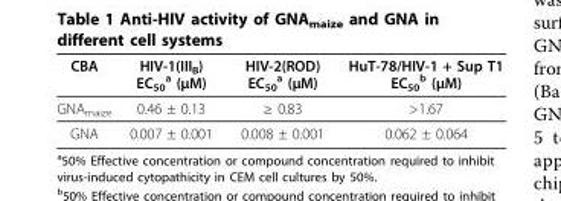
<table><thead><tr><td>CBA</td><td>HIV-1(III<sub>B</sub>) EC<sub>50</sub> <sup>a</sup> (μM)</td><td>HIV-2(ROD) EC<sub>50</sub> <sup>a</sup> (μM)</td><td>HuT-78/HIV-1 + Sup T1 EC<sub>50</sub> <sup>b</sup> (μM)</td></tr></thead><tbody><tr><td>GNA<sub>maize</sub></td><td>0.46 ± 0.13</td><td>≥ 0.83</td><td>&gt;1.67</td></tr><tr><td>GNA</td><td>0.007 ± 0.001</td><td>0.008 ± 0.001</td><td>0.062 ± 0.064</td></tr></tbody></table>